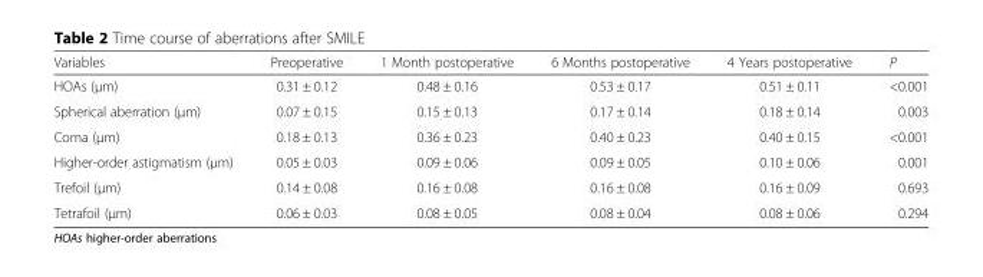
<table><thead><tr><td>Variables</td><td>Preoperative</td><td>1 Month postoperative</td><td>6 Months postoperative</td><td>4 Years postoperative</td><td>P</td></tr></thead><tbody><tr><td>HOAs (μm)</td><td>0.31 ± 0.12</td><td>0.48 ± 0.16</td><td>0.53 ± 0.17</td><td>0.51 ± 0.11</td><td>&lt;0.001</td></tr><tr><td>Spherical aberration (μm)</td><td>0.07 ± 0.15</td><td>0.15 ± 0.13</td><td>0.17 ± 0.14</td><td>0.18 ± 0.14</td><td>0.003</td></tr><tr><td>Coma (μm)</td><td>0.18 ± 0.13</td><td>0.36 ± 0.23</td><td>0.40 ± 0.23</td><td>0.40 ± 0.15</td><td>&lt;0.001</td></tr><tr><td>Higher-order astigmatism (μm)</td><td>0.05 ± 0.03</td><td>0.09 ± 0.06</td><td>0.09 ± 0.05</td><td>0.10 ± 0.06</td><td>0.001</td></tr><tr><td>Trefoil (μm)</td><td>0.14 ± 0.08</td><td>0.16 ± 0.08</td><td>0.16 ± 0.08</td><td>0.16 ± 0.09</td><td>0.693</td></tr><tr><td>Tetrafoil (μm)</td><td>0.06 ± 0.03</td><td>0.08 ± 0.05</td><td>0.08 ± 0.04</td><td>0.08 ± 0.06</td><td>0.294</td></tr></tbody></table>